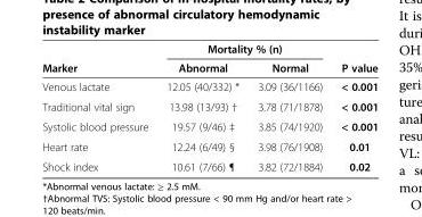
<table><thead><tr><td rowspan="2">Marker</td><td colspan="2">Mortality % (n)</td><td rowspan="2">P value</td></tr><tr><td>Abnormal</td><td>Normal</td></tr></thead><tbody><tr><td>Venous lactate</td><td>12.05 (40/332) *</td><td>3.09 (36/1166)</td><td>&lt; 0.001</td></tr><tr><td>Traditional vital sign</td><td>13.98 (13/93) †</td><td>3.78 (71/1878)</td><td>&lt; 0.001</td></tr><tr><td>Systolic blood pressure</td><td>19.57 (9/46) ‡</td><td>3.85 (74/1920)</td><td>&lt; 0.001</td></tr><tr><td>Heart rate</td><td>12.24 (6/49) §</td><td>3.98 (76/1908)</td><td>0.01</td></tr><tr><td>Shock index</td><td>10.61 (7/66) ¶</td><td>3.82 (72/1884)</td><td>0.02</td></tr></tbody></table>